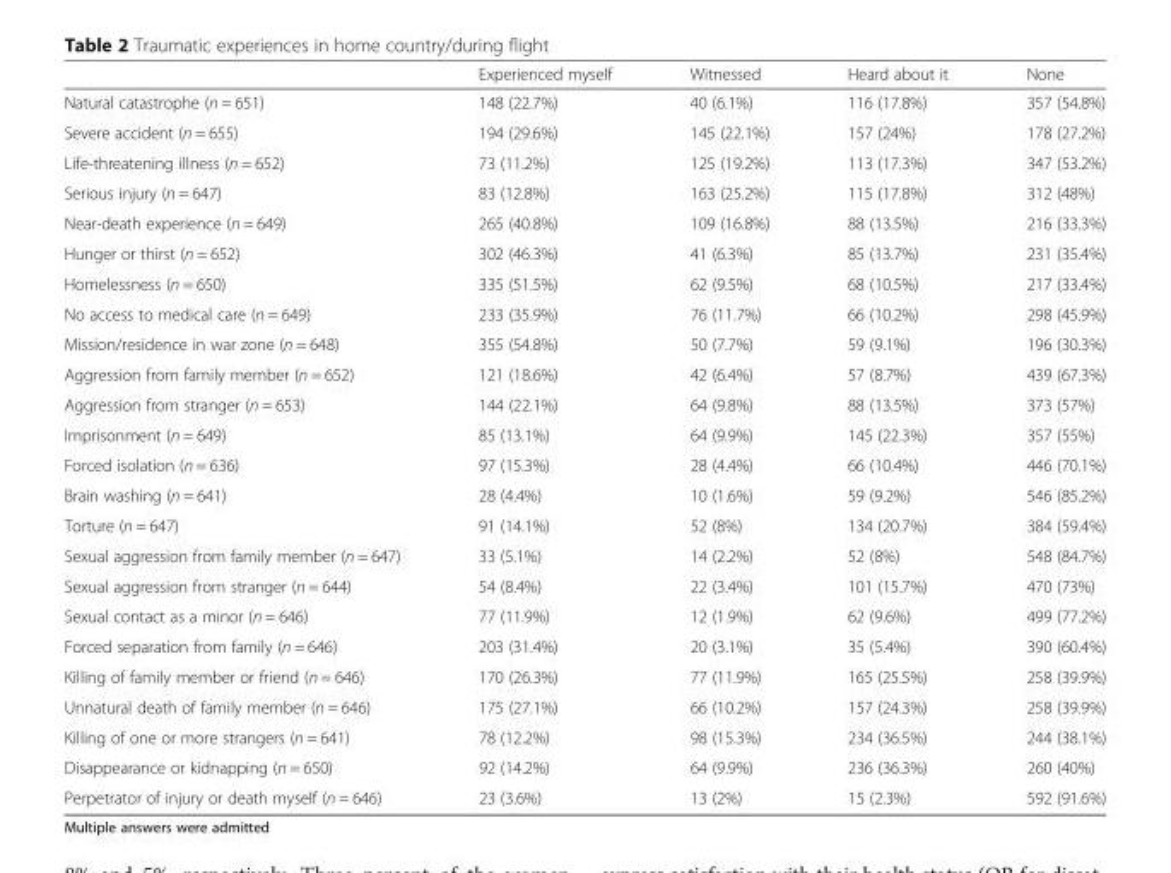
<table><thead><tr><td></td><td>Experienced myself</td><td>Witnessed</td><td>Heard about it</td><td>None</td></tr></thead><tbody><tr><td>Natural catastrophe (n = 651)</td><td>148 (22.7%)</td><td>40 (6.1%)</td><td>116 (17.8%)</td><td>357 (54.8%)</td></tr><tr><td>Severe accident (n = 655)</td><td>194 (29.6%)</td><td>145 (22.1%)</td><td>157 (24%)</td><td>178 (27.2%)</td></tr><tr><td>Life-threatening illness (n = 652)</td><td>73 (11.2%)</td><td>125 (19.2%)</td><td>113 (17.3%)</td><td>347 (53.2%)</td></tr><tr><td>Serious injury (n = 647)</td><td>83 (12.8%)</td><td>163 (25.2%)</td><td>115 (17.8%)</td><td>312 (48%)</td></tr><tr><td>Near-death experience (n = 649)</td><td>265 (40.8%)</td><td>109 (16.8%)</td><td>88 (13.5%)</td><td>216 (33.3%)</td></tr><tr><td>Hunger or thirst (n = 652)</td><td>302 (46.3%)</td><td>41 (6.3%)</td><td>85 (13.7%)</td><td>231 (35.4%)</td></tr><tr><td>Homelessness (n = 650)</td><td>335 (51.5%)</td><td>62 (9.5%)</td><td>68 (10.5%)</td><td>217 (33.4%)</td></tr><tr><td>No access to medical care (n = 649)</td><td>233 (35.9%)</td><td>76 (11.7%)</td><td>66 (10.2%)</td><td>298 (45.9%)</td></tr><tr><td>Mission/residence in war zone (n = 648)</td><td>355 (54.8%)</td><td>50 (7.7%)</td><td>59 (9.1%)</td><td>196 (30.3%)</td></tr><tr><td>Aggression from family member (n = 652)</td><td>121 (18.6%)</td><td>42 (6.4%)</td><td>57 (8.7%)</td><td>439 (67.3%)</td></tr><tr><td>Aggression from stranger (n = 653)</td><td>144 (22.1%)</td><td>64 (9.8%)</td><td>88 (13.5%)</td><td>373 (57%)</td></tr><tr><td>Imprisonment (n = 649)</td><td>85 (13.1%)</td><td>64 (9.9%)</td><td>145 (22.3%)</td><td>357 (55%)</td></tr><tr><td>Forced isolation (n = 636)</td><td>97 (15.3%)</td><td>28 (4.4%)</td><td>66 (10.4%)</td><td>446 (70.1%)</td></tr><tr><td>Brain washing (n = 641)</td><td>28 (4.4%)</td><td>10 (1.6%)</td><td>59 (9.2%)</td><td>546 (85.2%)</td></tr><tr><td>Torture (n = 647)</td><td>91 (14.1%)</td><td>52 (8%)</td><td>134 (20.7%)</td><td>384 (59.4%)</td></tr><tr><td>Sexual aggression from family member (n = 647)</td><td>33 (5.1%)</td><td>14 (2.2%)</td><td>52 (8%)</td><td>548 (84.7%)</td></tr><tr><td>Sexual aggression from stranger (n = 644)</td><td>54 (8.4%)</td><td>22 (3.4%)</td><td>101 (15.7%)</td><td>470 (73%)</td></tr><tr><td>Sexual contact as a minor (n = 646)</td><td>77 (11.9%)</td><td>12 (1.9%)</td><td>62 (9.6%)</td><td>499 (77.2%)</td></tr><tr><td>Forced separation from family (n = 646)</td><td>203 (31.4%)</td><td>20 (3.1%)</td><td>35 (5.4%)</td><td>390 (60.4%)</td></tr><tr><td>Killing of family member or friend (n = 646)</td><td>170 (26.3%)</td><td>77 (11.9%)</td><td>165 (25.5%)</td><td>258 (39.9%)</td></tr><tr><td>Unnatural death of family member (n = 646)</td><td>175 (27.1%)</td><td>66 (10.2%)</td><td>157 (24.3%)</td><td>258 (39.9%)</td></tr><tr><td>Killing of one or more strangers (n = 641)</td><td>78 (12.2%)</td><td>98 (15.3%)</td><td>234 (36.5%)</td><td>244 (38.1%)</td></tr><tr><td>Disappearance or kidnapping (n = 650)</td><td>92 (14.2%)</td><td>64 (9.9%)</td><td>236 (36.3%)</td><td>260 (40%)</td></tr><tr><td>Perpetrator of injury or death myself (n = 646)</td><td>23 (3.6%)</td><td>13 (2%)</td><td>15 (2.3%)</td><td>592 (91.6%)</td></tr></tbody></table>